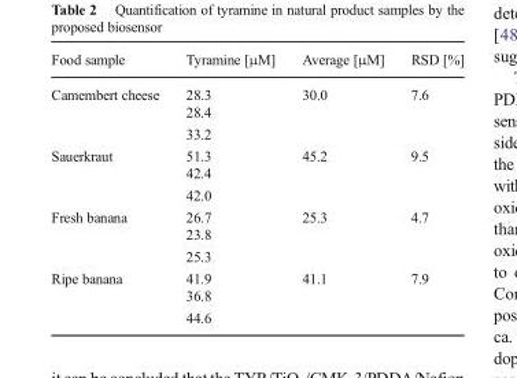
<table><thead><tr><td>Food sample</td><td>Tyramine [μM]</td><td>Average [μM]</td><td>RSD [%]</td></tr></thead><tbody><tr><td rowspan="3">Camembert cheese</td><td>28.3</td><td rowspan="3">30.0</td><td rowspan="3">7.6</td></tr><tr><td>28.4</td></tr><tr><td>33.2</td></tr><tr><td rowspan="3">Sauerkraut</td><td>51.3</td><td rowspan="3">45.2</td><td rowspan="3">9.5</td></tr><tr><td>42.4</td></tr><tr><td>42.0</td></tr><tr><td rowspan="3">Fresh banana</td><td>26.7</td><td rowspan="3">25.3</td><td rowspan="3">4.7</td></tr><tr><td>23.8</td></tr><tr><td>25.3</td></tr><tr><td rowspan="3">Ripe banana</td><td>41.9</td><td rowspan="3">41.1</td><td rowspan="3">7.9</td></tr><tr><td>36.8</td></tr><tr><td>44.6</td></tr></tbody></table>